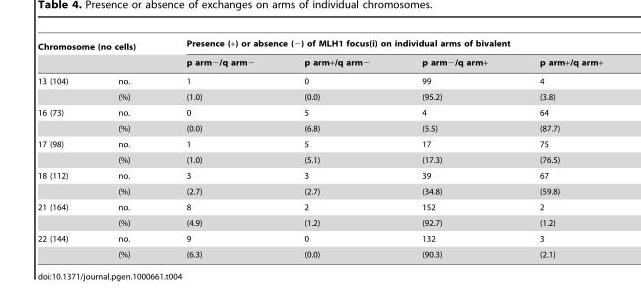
<table><thead><tr><td colspan="2">Chromosome (no cells)</td><td colspan="4">Presence (+) or absence (−) of MLH1 focus(i) on individual arms of bivalent</td></tr><tr><td></td><td></td><td>p arm−/q arm−</td><td>p arm+/q arm−</td><td>p arm−/q arm+</td><td>p arm+/q arm+</td></tr></thead><tbody><tr><td rowspan="2">13 (104)</td><td>no.</td><td>1</td><td>0</td><td>99</td><td>4</td></tr><tr><td>(%)</td><td>(1.0)</td><td>(0.0)</td><td>(95.2)</td><td>(3.8)</td></tr><tr><td rowspan="2">16 (73)</td><td>no.</td><td>0</td><td>5</td><td>4</td><td>64</td></tr><tr><td>(%)</td><td>(0.0)</td><td>(6.8)</td><td>(5.5)</td><td>(87.7)</td></tr><tr><td rowspan="2">17 (98)</td><td>no.</td><td>1</td><td>5</td><td>17</td><td>75</td></tr><tr><td>(%)</td><td>(1.0)</td><td>(5.1)</td><td>(17.3)</td><td>(76.5)</td></tr><tr><td rowspan="2">18 (112)</td><td>no.</td><td>3</td><td>3</td><td>39</td><td>67</td></tr><tr><td>(%)</td><td>(2.7)</td><td>(2.7)</td><td>(34.8)</td><td>(59.8)</td></tr><tr><td rowspan="2">21 (164)</td><td>no.</td><td>8</td><td>2</td><td>152</td><td>2</td></tr><tr><td>(%)</td><td>(4.9)</td><td>(1.2)</td><td>(92.7)</td><td>(1.2)</td></tr><tr><td rowspan="2">22 (144)</td><td>no.</td><td>9</td><td>0</td><td>132</td><td>3</td></tr><tr><td>(%)</td><td>(6.3)</td><td>(0.0)</td><td>(90.3)</td><td>(2.1)</td></tr></tbody></table>